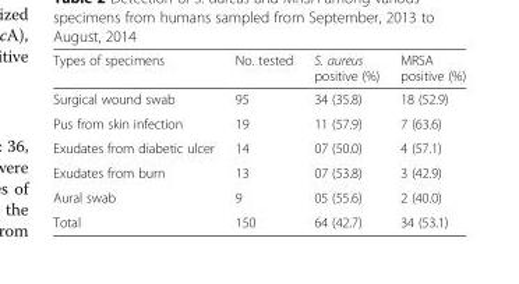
<table><thead><tr><td>Types of specimens</td><td>No. tested</td><td>S. aureus positive (%)</td><td>MRSA positive (%)</td></tr></thead><tbody><tr><td>Surgical wound swab</td><td>95</td><td>34 (35.8)</td><td>18 (52.9)</td></tr><tr><td>Pus from skin infection</td><td>19</td><td>11 (57.9)</td><td>7 (63.6)</td></tr><tr><td>Exudates from diabetic ulcer</td><td>14</td><td>07 (50.0)</td><td>4 (57.1)</td></tr><tr><td>Exudates from burn</td><td>13</td><td>07 (53.8)</td><td>3 (42.9)</td></tr><tr><td>Aural swab</td><td>9</td><td>05 (55.6)</td><td>2 (40.0)</td></tr><tr><td>Total</td><td>150</td><td>64 (42.7)</td><td>34 (53.1)</td></tr></tbody></table>